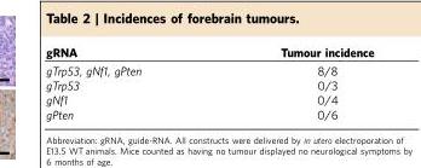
<table><thead><tr><td>gRNA</td><td>Tumour incidence</td></tr></thead><tbody><tr><td>gTrp53, gNf1, gPten</td><td>8/8</td></tr><tr><td>gTrp53</td><td>0/3</td></tr><tr><td>gNf1</td><td>0/4</td></tr><tr><td>gPten</td><td>0/6</td></tr></tbody></table>